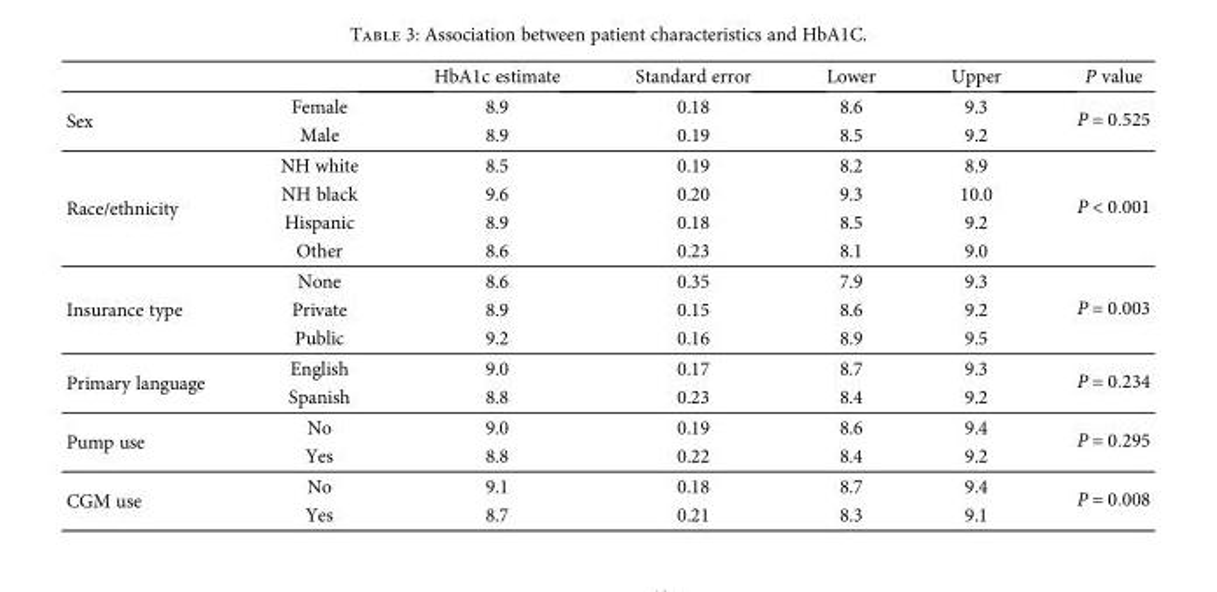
<table><thead><tr><td></td><td></td><td>HbA1c estimate</td><td>Standard error</td><td>Lower</td><td>Upper</td><td>P value</td></tr></thead><tbody><tr><td rowspan="2">Sex</td><td>Female</td><td>8.9</td><td>0.18</td><td>8.6</td><td>9.3</td><td rowspan="2">P = 0 525</td></tr><tr><td>Male</td><td>8.9</td><td>0.19</td><td>8.5</td><td>9.2</td></tr><tr><td rowspan="4">Race/ethnicity</td><td>NH white</td><td>8.5</td><td>0.19</td><td>8.2</td><td>8.9</td><td rowspan="4">P &lt; 0 001</td></tr><tr><td>NH black</td><td>9.6</td><td>0.20</td><td>9.3</td><td>10.0</td></tr><tr><td>Hispanic</td><td>8.9</td><td>0.18</td><td>8.5</td><td>9.2</td></tr><tr><td>Other</td><td>8.6</td><td>0.23</td><td>8.1</td><td>9.0</td></tr><tr><td rowspan="3">Insurance type</td><td>None</td><td>8.6</td><td>0.35</td><td>7.9</td><td>9.3</td><td rowspan="3">P = 0 003</td></tr><tr><td>Private</td><td>8.9</td><td>0.15</td><td>8.6</td><td>9.2</td></tr><tr><td>Public</td><td>9.2</td><td>0.16</td><td>8.9</td><td>9.5</td></tr><tr><td rowspan="2">Primary language</td><td>English</td><td>9.0</td><td>0.17</td><td>8.7</td><td>9.3</td><td rowspan="2">P = 0 234</td></tr><tr><td>Spanish</td><td>8.8</td><td>0.23</td><td>8.4</td><td>9.2</td></tr><tr><td rowspan="2">Pump use</td><td>No</td><td>9.0</td><td>0.19</td><td>8.6</td><td>9.4</td><td rowspan="2">P = 0 295</td></tr><tr><td>Yes</td><td>8.8</td><td>0.22</td><td>8.4</td><td>9.2</td></tr><tr><td rowspan="2">CGM use</td><td>No</td><td>9.1</td><td>0.18</td><td>8.7</td><td>9.4</td><td rowspan="2">P = 0 008</td></tr><tr><td>Yes</td><td>8.7</td><td>0.21</td><td>8.3</td><td>9.1</td></tr></tbody></table>